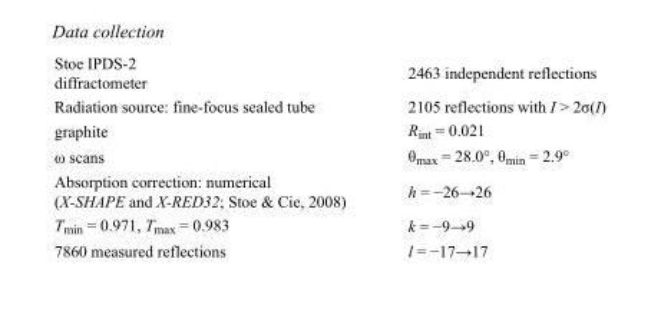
<table><tbody><tr><td>Stoe IPDS-2 diffractometer</td><td>2463 independent reflections</td></tr><tr><td>Radiation source: fine-focus sealed tube</td><td>2105 reflections with I &gt; 2σ(I)</td></tr><tr><td>graphite</td><td>R<sub>int</sub> = 0.021</td></tr><tr><td>ω scans</td><td>θ<sub>max</sub> = 28.0°, θ<sub>min</sub> = 2.9°</td></tr><tr><td>Absorption correction: numerical (X-SHAPE and X-RED32; Stoe &amp; Cie, 2008)</td><td>h = −26→26</td></tr><tr><td>T<sub>min</sub> = 0.971, T<sub>max</sub> = 0.983</td><td>k = −9→9</td></tr><tr><td>7860 measured reflections</td><td>l = −17→17</td></tr></tbody></table>